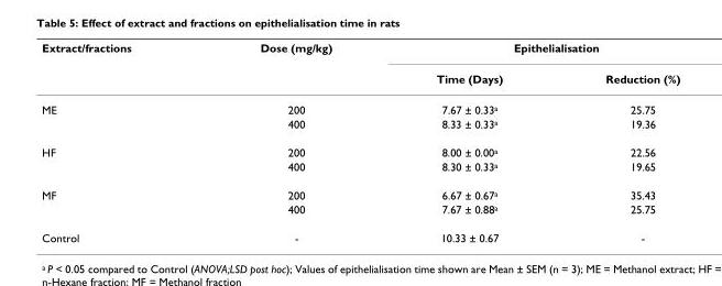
<table><thead><tr><td rowspan="2">Extract/fractions</td><td rowspan="2">Dose (mg/kg)</td><td colspan="2">Epithelialisation</td></tr><tr><td>Time (Days)</td><td>Reduction (%)</td></tr></thead><tbody><tr><td rowspan="2">ME</td><td>200</td><td>7.67 ± 0.33<sup>a</sup></td><td>25.75</td></tr><tr><td>400</td><td>8.33 ± 0.33<sup>a</sup></td><td>19.36</td></tr><tr><td rowspan="2">HF</td><td>200</td><td>8.00 ± 0.00<sup>a</sup></td><td>22.56</td></tr><tr><td>400</td><td>8.30 ± 0.33<sup>a</sup></td><td>19.65</td></tr><tr><td rowspan="2">MF</td><td>200</td><td>6.67 ± 0.67<sup>a</sup></td><td>35.43</td></tr><tr><td>400</td><td>7.67 ± 0.88<sup>a</sup></td><td>25.75</td></tr><tr><td>Control</td><td>-</td><td>10.33 ± 0.67</td><td>-</td></tr></tbody></table>